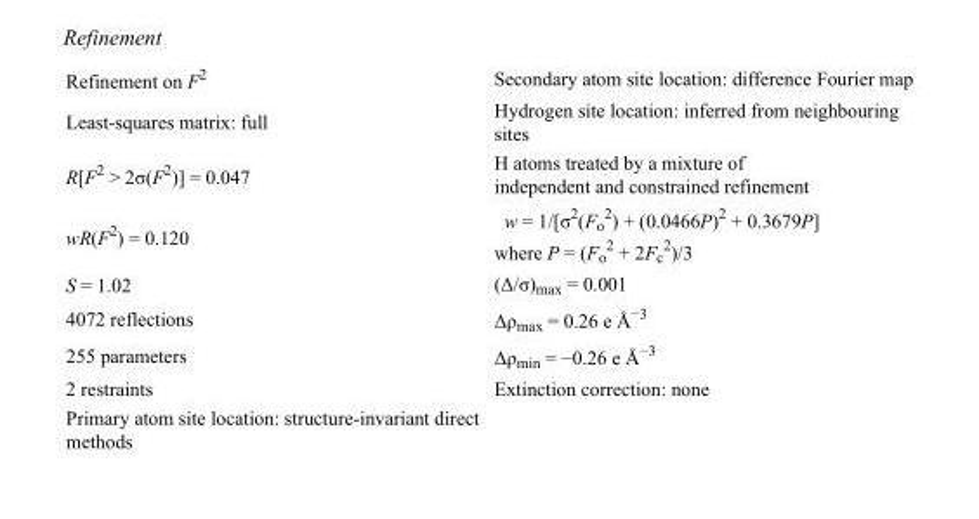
<table><tbody><tr><td>Refinement on F<sup>2</sup></td><td>Secondary atom site location: difference Fourier map</td></tr><tr><td>Least-squares matrix: full</td><td>Hydrogen site location: inferred from neighbouring sites</td></tr><tr><td>R[F<sup>2</sup> &gt; 2σ(F<sup>2</sup>)] = 0.047</td><td>H atoms treated by a mixture of independent and constrained refinement</td></tr><tr><td>wR(F<sup>2</sup>) = 0.120</td><td>w = 1/[σ<sup>2</sup>(F<sub>o</sub> <sup>2</sup>) + (0.0466P)<sup>2</sup> + 0.3679P] where P = (F<sub>o</sub> <sup>2</sup> + 2F<sub>c</sub> <sup>2</sup>)/3</td></tr><tr><td>S = 1.02</td><td>(Δ/σ)<sub>max</sub> = 0.001</td></tr><tr><td>4072 reflections</td><td>Δρ<sub>max</sub> = 0.26 e Å<sup>−3</sup></td></tr><tr><td>255 parameters</td><td>Δρ<sub>min</sub> = −0.26 e Å<sup>−3</sup></td></tr><tr><td>2 restraints</td><td>Extinction correction: none</td></tr><tr><td>Primary atom site location: structure-invariant direct methods</td><td></td></tr></tbody></table>